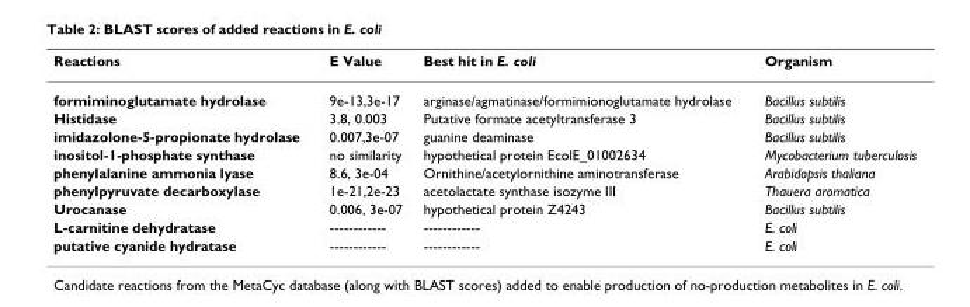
<table><thead><tr><td>Reactions</td><td>E Value</td><td>Best hit in E. coli</td><td>Organism</td></tr></thead><tbody><tr><td>formiminoglutamate hydrolase</td><td>9e-13,3e-17</td><td>arginase/agmatinase/formimionoglutamate hydrolase</td><td>Bacillus subtilis</td></tr><tr><td>Histidase</td><td>3.8, 0.003</td><td>Putative formate acetyltransferase 3</td><td>Bacillus subtilis</td></tr><tr><td>imidazolone-5-propionate hydrolase</td><td>0.007,3e-07</td><td>guanine deaminase</td><td>Bacillus subtilis</td></tr><tr><td>inositol-1-phosphate synthase</td><td>no similarity</td><td>hypothetical protein EcolE_01002634</td><td>Mycobacterium tuberculosis</td></tr><tr><td>phenylalanine ammonia lyase</td><td>8.6, 3e-04</td><td>Ornithine/acetylornithine aminotransferase</td><td>Arabidopsis thaliana</td></tr><tr><td>phenylpyruvate decarboxylase</td><td>1e-21,2e-23</td><td>acetolactate synthase isozyme III</td><td>Thauera aromatica</td></tr><tr><td>Urocanase</td><td>0.006, 3e-07</td><td>hypothetical protein Z4243</td><td>Bacillus subtilis</td></tr><tr><td>L-carnitine dehydratase</td><td>------------</td><td>------------</td><td>E. coli</td></tr><tr><td>putative cyanide hydratase</td><td>------------</td><td>------------</td><td>E. coli</td></tr></tbody></table>